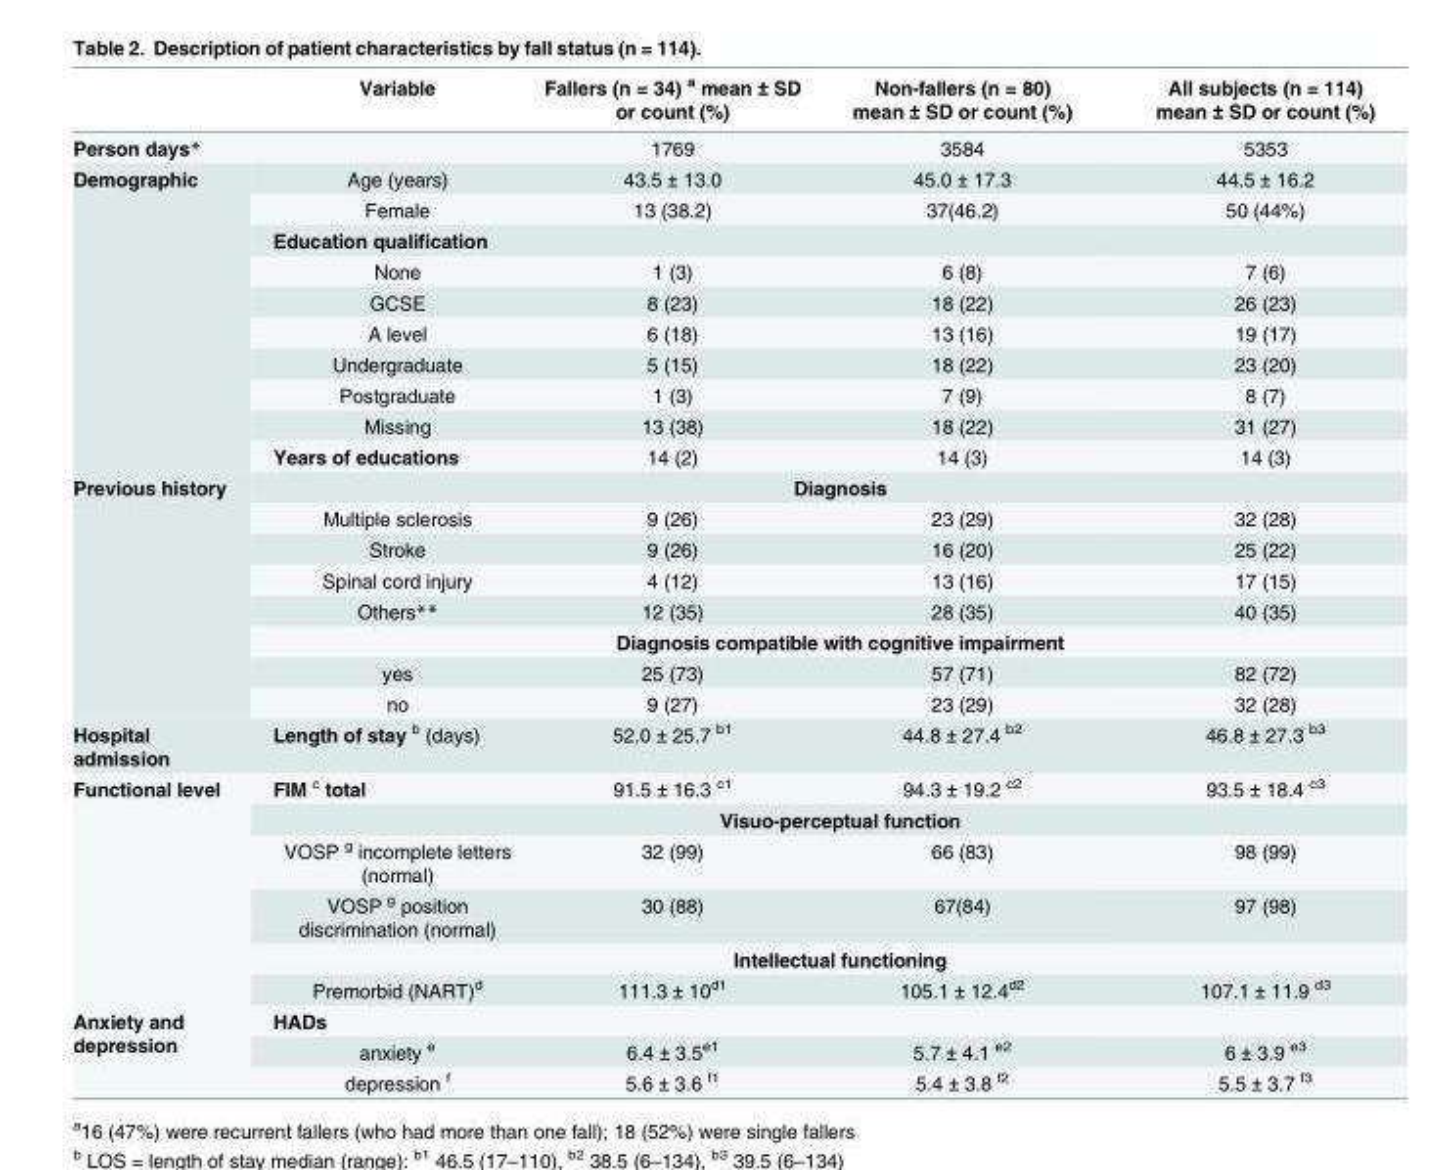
<table><thead><tr><td></td><td>Variable</td><td>Fallers (n = 34) <sup>a</sup> mean ± SD or count (%)</td><td>Non-fallers (n = 80) mean ± SD or count (%)</td><td>All subjects (n = 114) mean ± SD or count (%)</td></tr></thead><tbody><tr><td>Person days*</td><td></td><td>1769</td><td>3584</td><td>5353</td></tr><tr><td rowspan="10">Demographic</td><td>Age (years)</td><td>43.5 ± 13.0</td><td>45.0 ± 17.3</td><td>44.5 ± 16.2</td></tr><tr><td>Female</td><td>13 (38.2)</td><td>37(46.2)</td><td>50 (44%)</td></tr><tr><td>Education qualification</td><td></td><td></td><td></td></tr><tr><td>None</td><td>1 (3)</td><td>6 (8)</td><td>7 (6)</td></tr><tr><td>GCSE</td><td>8 (23)</td><td>18 (22)</td><td>26 (23)</td></tr><tr><td>A level</td><td>6 (18)</td><td>13 (16)</td><td>19 (17)</td></tr><tr><td>Undergraduate</td><td>5 (15)</td><td>18 (22)</td><td>23 (20)</td></tr><tr><td>Postgraduate</td><td>1 (3)</td><td>7 (9)</td><td>8 (7)</td></tr><tr><td>Missing</td><td>13 (38)</td><td>18 (22)</td><td>31 (27)</td></tr><tr><td>Years of educations</td><td>14 (2)</td><td>14 (3)</td><td>14 (3)</td></tr><tr><td rowspan="8">Previous history</td><td colspan="4">Diagnosis</td></tr><tr><td>Multiple sclerosis</td><td>9 (26)</td><td>23 (29)</td><td>32 (28)</td></tr><tr><td>Stroke</td><td>9 (26)</td><td>16 (20)</td><td>25 (22)</td></tr><tr><td>Spinal cord injury</td><td>4 (12)</td><td>13 (16)</td><td>17 (15)</td></tr><tr><td>Others**</td><td>12 (35)</td><td>28 (35)</td><td>40 (35)</td></tr><tr><td colspan="4">Diagnosis compatible with cognitive impairment</td></tr><tr><td>yes</td><td>25 (73)</td><td>57 (71)</td><td>82 (72)</td></tr><tr><td>no</td><td>9 (27)</td><td>23 (29)</td><td>32 (28)</td></tr><tr><td>Hospital admission</td><td>Length of stay <sup>b</sup> (days)</td><td>52.0 ± 25.7 <sup>b1</sup></td><td>44.8 ± 27.4 <sup>b2</sup></td><td>46.8 ± 27.3 <sup>b3</sup></td></tr><tr><td rowspan="6">Functional level</td><td>FIM <sup>c</sup> total</td><td>91.5 ± 16.3 <sup>c1</sup></td><td>94.3 ± 19.2 <sup>c2</sup></td><td>93.5 ± 18.4 <sup>c3</sup></td></tr><tr><td colspan="4">Visuo-perceptual function</td></tr><tr><td>VOSP <sup>g</sup> incomplete letters (normal)</td><td>32 (99)</td><td>66 (83)</td><td>98 (99)</td></tr><tr><td>VOSP <sup>g</sup> position discrimination (normal)</td><td>30 (88)</td><td>67(84)</td><td>97 (98)</td></tr><tr><td colspan="4">Intellectual functioning</td></tr><tr><td>Premorbid (NART)<sup>d</sup></td><td>111.3 ± 10<sup>d1</sup></td><td>105.1 ± 12.4<sup>d2</sup></td><td>107.1 ± 11.9 <sup>d3</sup></td></tr><tr><td rowspan="3">Anxiety and depression</td><td>HADs</td><td></td><td></td><td></td></tr><tr><td>anxiety <sup>e</sup></td><td>6.4 ± 3.5<sup>e1</sup></td><td>5.7 ± 4.1 <sup>e2</sup></td><td>6 ± 3.9 <sup>e3</sup></td></tr><tr><td>depression <sup>f</sup></td><td>5.6 ± 3.6 <sup>f1</sup></td><td>5.4 ± 3.8 <sup>f2</sup></td><td>5.5 ± 3.7 <sup>f3</sup></td></tr></tbody></table>